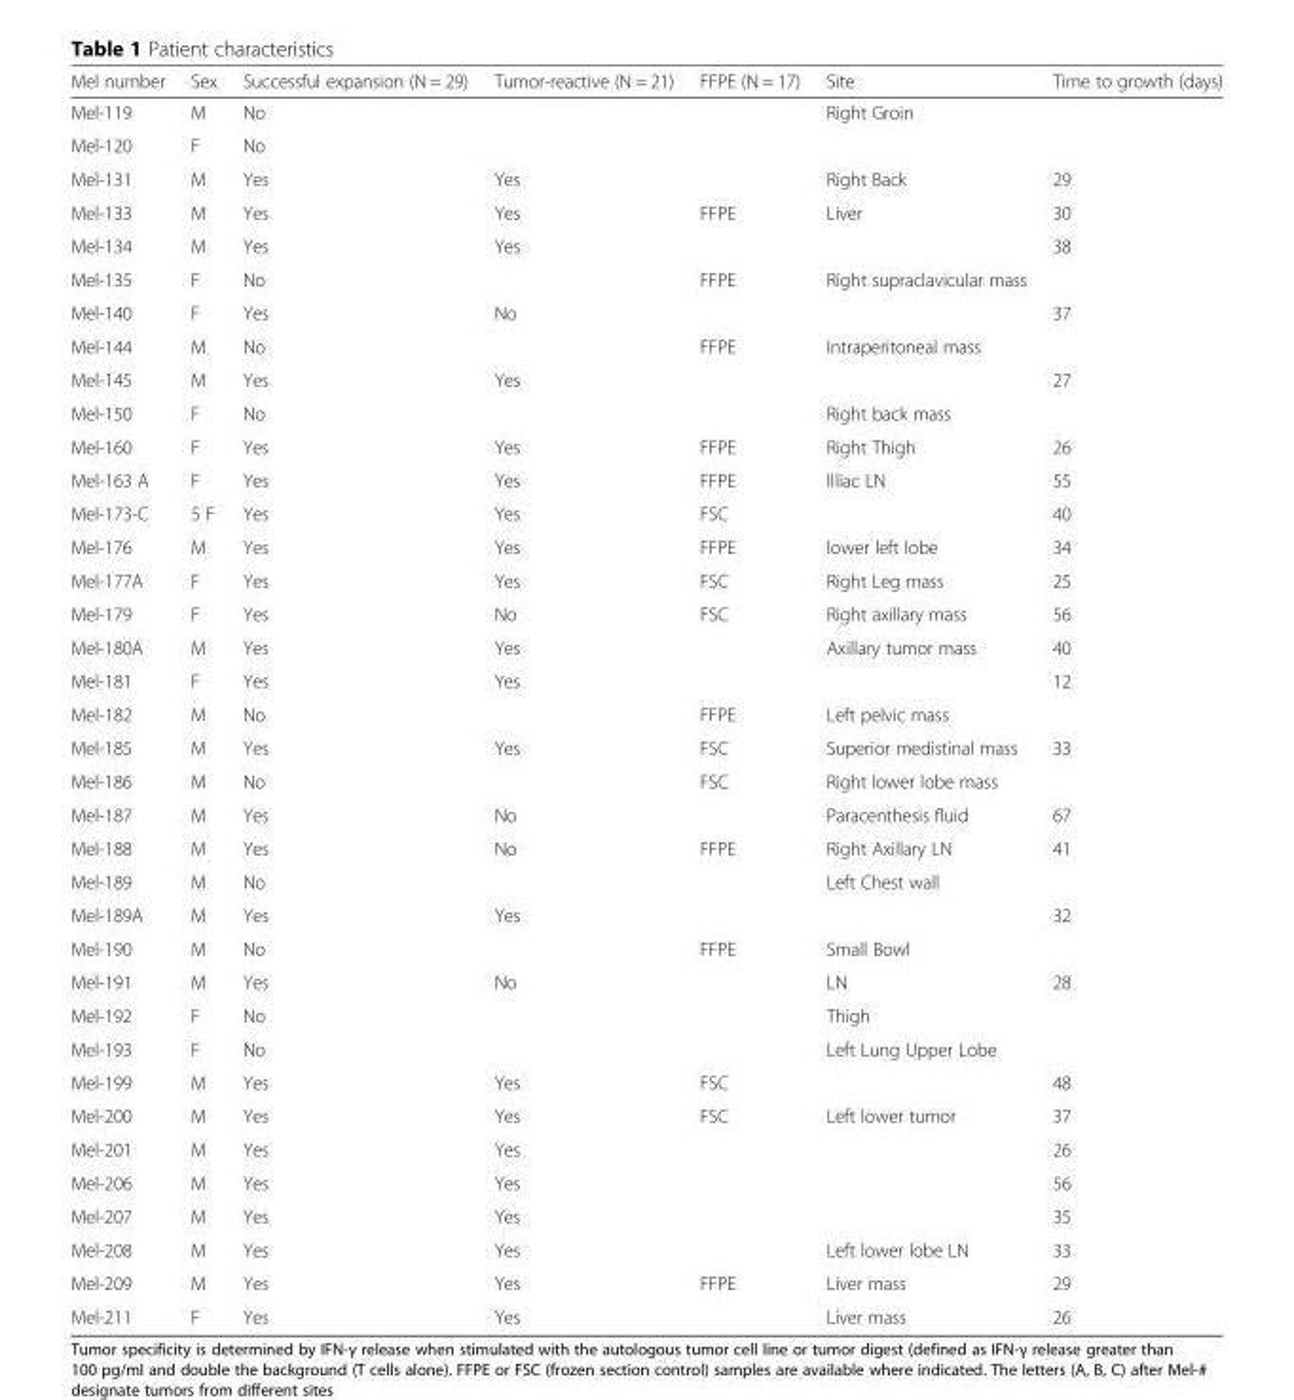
<table><thead><tr><td>Mel number</td><td>Sex</td><td>Successful expansion (N = 29)</td><td>Tumor-reactive (N = 21)</td><td>FFPE (N = 17)</td><td>Site</td><td>Time to growth (days)</td></tr></thead><tbody><tr><td>Mel-119</td><td>M</td><td>No</td><td></td><td></td><td>Right Groin</td><td></td></tr><tr><td>Mel-120</td><td>F</td><td>No</td><td></td><td></td><td></td><td></td></tr><tr><td>Mel-131</td><td>M</td><td>Yes</td><td>Yes</td><td></td><td>Right Back</td><td>29</td></tr><tr><td>Mel-133</td><td>M</td><td>Yes</td><td>Yes</td><td>FFPE</td><td>Liver</td><td>30</td></tr><tr><td>Mel-134</td><td>M</td><td>Yes</td><td>Yes</td><td></td><td></td><td>38</td></tr><tr><td>Mel-135</td><td>F</td><td>No</td><td></td><td>FFPE</td><td>Right supraclavicular mass</td><td></td></tr><tr><td>Mel-140</td><td>F</td><td>Yes</td><td>No</td><td></td><td></td><td>37</td></tr><tr><td>Mel-144</td><td>M</td><td>No</td><td></td><td>FFPE</td><td>Intraperitoneal mass</td><td></td></tr><tr><td>Mel-145</td><td>M</td><td>Yes</td><td>Yes</td><td></td><td></td><td>27</td></tr><tr><td>Mel-150</td><td>F</td><td>No</td><td></td><td></td><td>Right back mass</td><td></td></tr><tr><td>Mel-160</td><td>F</td><td>Yes</td><td>Yes</td><td>FFPE</td><td>Right Thigh</td><td>26</td></tr><tr><td>Mel-163 A</td><td>F</td><td>Yes</td><td>Yes</td><td>FFPE</td><td>Illiac LN</td><td>55</td></tr><tr><td>Mel-173-C</td><td>5 F</td><td>Yes</td><td>Yes</td><td>FSC</td><td></td><td>40</td></tr><tr><td>Mel-176</td><td>M</td><td>Yes</td><td>Yes</td><td>FFPE</td><td>lower left lobe</td><td>34</td></tr><tr><td>Mel-177A</td><td>F</td><td>Yes</td><td>Yes</td><td>FSC</td><td>Right Leg mass</td><td>25</td></tr><tr><td>Mel-179</td><td>F</td><td>Yes</td><td>No</td><td>FSC</td><td>Right axillary mass</td><td>56</td></tr><tr><td>Mel-180A</td><td>M</td><td>Yes</td><td>Yes</td><td></td><td>Axillary tumor mass</td><td>40</td></tr><tr><td>Mel-181</td><td>F</td><td>Yes</td><td>Yes</td><td></td><td></td><td>12</td></tr><tr><td>Mel-182</td><td>M</td><td>No</td><td></td><td>FFPE</td><td>Left pelvic mass</td><td></td></tr><tr><td>Mel-185</td><td>M</td><td>Yes</td><td>Yes</td><td>FSC</td><td>Superior medistinal mass</td><td>33</td></tr><tr><td>Mel-186</td><td>M</td><td>No</td><td></td><td>FSC</td><td>Right lower lobe mass</td><td></td></tr><tr><td>Mel-187</td><td>M</td><td>Yes</td><td>No</td><td></td><td>Paracenthesis fluid</td><td>67</td></tr><tr><td>Mel-188</td><td>M</td><td>Yes</td><td>No</td><td>FFPE</td><td>Right Axillary LN</td><td>41</td></tr><tr><td>Mel-189</td><td>M</td><td>No</td><td></td><td></td><td>Left Chest wall</td><td></td></tr><tr><td>Mel-189A</td><td>M</td><td>Yes</td><td>Yes</td><td></td><td></td><td>32</td></tr><tr><td>Mel-190</td><td>M</td><td>No</td><td></td><td>FFPE</td><td>Small Bowl</td><td></td></tr><tr><td>Mel-191</td><td>M</td><td>Yes</td><td>No</td><td></td><td>LN</td><td>28</td></tr><tr><td>Mel-192</td><td>F</td><td>No</td><td></td><td></td><td>Thigh</td><td></td></tr><tr><td>Mel-193</td><td>F</td><td>No</td><td></td><td></td><td>Left Lung Upper Lobe</td><td></td></tr><tr><td>Mel-199</td><td>M</td><td>Yes</td><td>Yes</td><td>FSC</td><td></td><td>48</td></tr><tr><td>Mel-200</td><td>M</td><td>Yes</td><td>Yes</td><td>FSC</td><td>Left lower tumor</td><td>37</td></tr><tr><td>Mel-201</td><td>M</td><td>Yes</td><td>Yes</td><td></td><td></td><td>26</td></tr><tr><td>Mel-206</td><td>M</td><td>Yes</td><td>Yes</td><td></td><td></td><td>56</td></tr><tr><td>Mel-207</td><td>M</td><td>Yes</td><td>Yes</td><td></td><td></td><td>35</td></tr><tr><td>Mel-208</td><td>M</td><td>Yes</td><td>Yes</td><td></td><td>Left lower lobe LN</td><td>33</td></tr><tr><td>Mel-209</td><td>M</td><td>Yes</td><td>Yes</td><td>FFPE</td><td>Liver mass</td><td>29</td></tr><tr><td>Mel-211</td><td>F</td><td>Yes</td><td>Yes</td><td></td><td>Liver mass</td><td>26</td></tr></tbody></table>